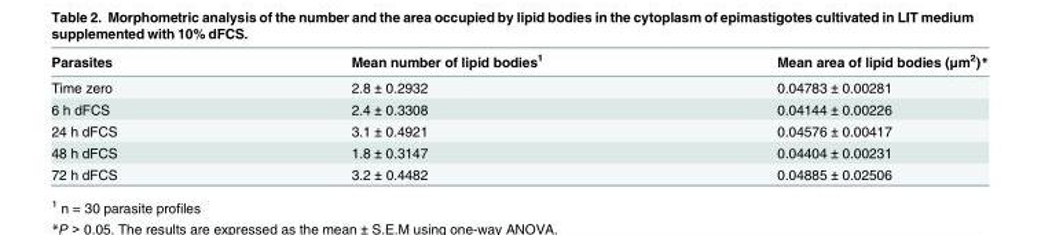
<table><thead><tr><td>Parasites</td><td>Mean number of lipid bodies<sup>1</sup></td><td>Mean area of lipid bodies (μm<sup>2</sup>)*</td></tr></thead><tbody><tr><td>Time zero</td><td>2.8 ± 0.2932</td><td>0.04783 ± 0.00281</td></tr><tr><td>6 h dFCS</td><td>2.4 ± 0.3308</td><td>0.04144 ± 0.00226</td></tr><tr><td>24 h dFCS</td><td>3.1 ± 0.4921</td><td>0.04576 ± 0.00417</td></tr><tr><td>48 h dFCS</td><td>1.8 ± 0.3147</td><td>0.04404 ± 0.00231</td></tr><tr><td>72 h dFCS</td><td>3.2 ± 0.4482</td><td>0.04885 ± 0.02506</td></tr></tbody></table>